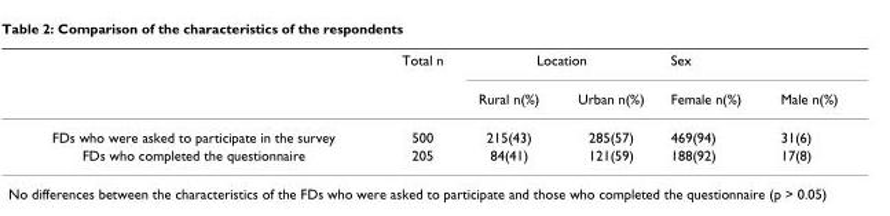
<table><thead><tr><td rowspan="2"></td><td rowspan="2">Total n</td><td colspan="2">Location</td><td colspan="2">Sex</td></tr><tr><td>Rural n(%)</td><td>Urban n(%)</td><td>Female n(%)</td><td>Male n(%)</td></tr></thead><tbody><tr><td>FDs who were asked to participate in the survey</td><td>500</td><td>215(43)</td><td>285(57)</td><td>469(94)</td><td>31(6)</td></tr><tr><td>FDs who completed the questionnaire</td><td>205</td><td>84(41)</td><td>121(59)</td><td>188(92)</td><td>17(8)</td></tr></tbody></table>